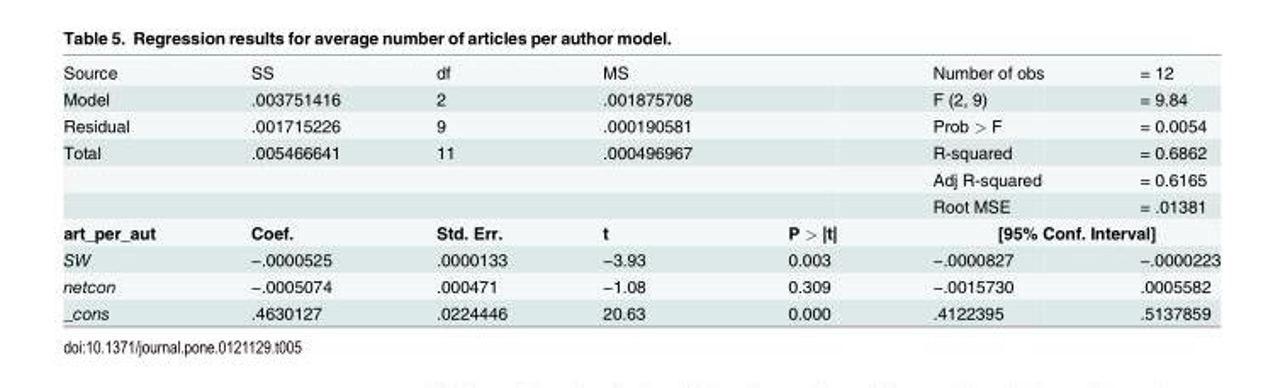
<table><tbody><tr><td>Source</td><td>SS</td><td>df</td><td>MS</td><td></td><td>Number of obs</td><td>= 12</td></tr><tr><td>Model</td><td>.003751416</td><td>2</td><td>.001875708</td><td></td><td>F (2, 9)</td><td>= 9.84</td></tr><tr><td>Residual</td><td>.001715226</td><td>9</td><td>.000190581</td><td></td><td>Prob &gt; F</td><td>= 0.0054</td></tr><tr><td rowspan="3">Total</td><td>.005466641</td><td>11</td><td>.000496967</td><td></td><td>R-squared</td><td>= 0.6862</td></tr><tr><td></td><td></td><td></td><td></td><td>Adj R-squared</td><td>= 0.6165</td></tr><tr><td></td><td></td><td></td><td></td><td>Root MSE</td><td>= .01381</td></tr><tr><td>art_per_aut</td><td>Coef.</td><td>Std. Err.</td><td>t</td><td>P &gt; |t|</td><td colspan="2">[95% Conf. Interval]</td></tr><tr><td>SW</td><td>−.0000525</td><td>.0000133</td><td>−3.93</td><td>0.003</td><td>−.0000827</td><td>−.0000223</td></tr><tr><td>netcon</td><td>−.0005074</td><td>.000471</td><td>−1.08</td><td>0.309</td><td>−.0015730</td><td>.0005582</td></tr><tr><td>_cons</td><td>.4630127</td><td>.0224446</td><td>20.63</td><td>0.000</td><td>.4122395</td><td>.5137859</td></tr></tbody></table>